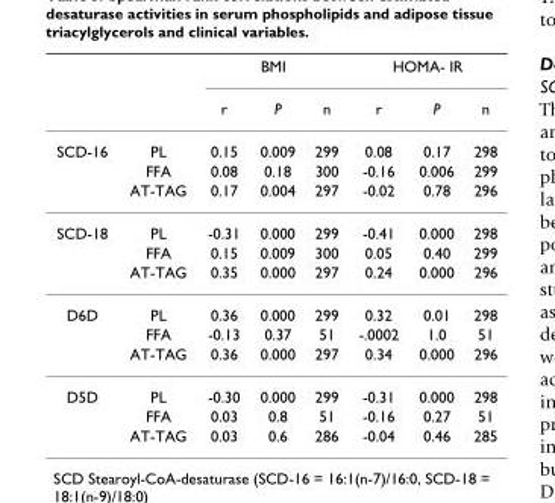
<table><thead><tr><td rowspan="2"></td><td rowspan="2"></td><td colspan="3">BMI</td><td colspan="3">HOMA- IR</td></tr><tr><td>r</td><td>P</td><td>n</td><td>r</td><td>P</td><td>n</td></tr></thead><tbody><tr><td rowspan="3">SCD-16</td><td>PL</td><td>0.15</td><td>0.009</td><td>299</td><td>0.08</td><td>0.17</td><td>298</td></tr><tr><td>FFA</td><td>0.08</td><td>0.18</td><td>300</td><td>-0.16</td><td>0.006</td><td>299</td></tr><tr><td>AT-TAG</td><td>0.17</td><td>0.004</td><td>297</td><td>-0.02</td><td>0.78</td><td>296</td></tr><tr><td rowspan="3">SCD-18</td><td>PL</td><td>-0.31</td><td>0.000</td><td>299</td><td>-0.41</td><td>0.000</td><td>298</td></tr><tr><td>FFA</td><td>0.15</td><td>0.009</td><td>300</td><td>0.05</td><td>0.40</td><td>299</td></tr><tr><td>AT-TAG</td><td>0.35</td><td>0.000</td><td>297</td><td>0.24</td><td>0.000</td><td>296</td></tr><tr><td rowspan="3">D6D</td><td>PL</td><td>0.36</td><td>0.000</td><td>299</td><td>0.32</td><td>0.01</td><td>298</td></tr><tr><td>FFA</td><td>-0.13</td><td>0.37</td><td>51</td><td>-.0002</td><td>1.0</td><td>51</td></tr><tr><td>AT-TAG</td><td>0.36</td><td>0.000</td><td>297</td><td>0.34</td><td>0.000</td><td>296</td></tr><tr><td rowspan="3">D5D</td><td>PL</td><td>-0.30</td><td>0.000</td><td>299</td><td>-0.31</td><td>0.000</td><td>298</td></tr><tr><td>FFA</td><td>0.03</td><td>0.8</td><td>51</td><td>-0.16</td><td>0.27</td><td>51</td></tr><tr><td>AT-TAG</td><td>0.03</td><td>0.6</td><td>286</td><td>-0.04</td><td>0.46</td><td>285</td></tr></tbody></table>